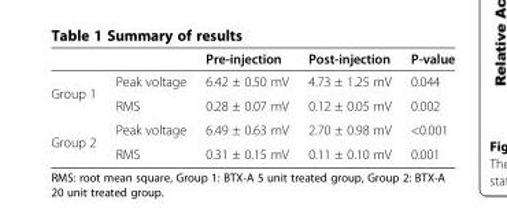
<table><thead><tr><td></td><td></td><td>Pre-injection</td><td>Post-injection</td><td>P-value</td></tr></thead><tbody><tr><td rowspan="2">Group 1</td><td>Peak voltage</td><td>6.42 ± 0.50 mV</td><td>4.73 ± 1.25 mV</td><td>0.044</td></tr><tr><td>RMS</td><td>0.28 ± 0.07 mV</td><td>0.12 ± 0.05 mV</td><td>0.002</td></tr><tr><td rowspan="2">Group 2</td><td>Peak voltage</td><td>6.49 ± 0.63 mV</td><td>2.70 ± 0.98 mV</td><td>&lt;0.001</td></tr><tr><td>RMS</td><td>0.31 ± 0.15 mV</td><td>0.11 ± 0.10 mV</td><td>0.001</td></tr></tbody></table>